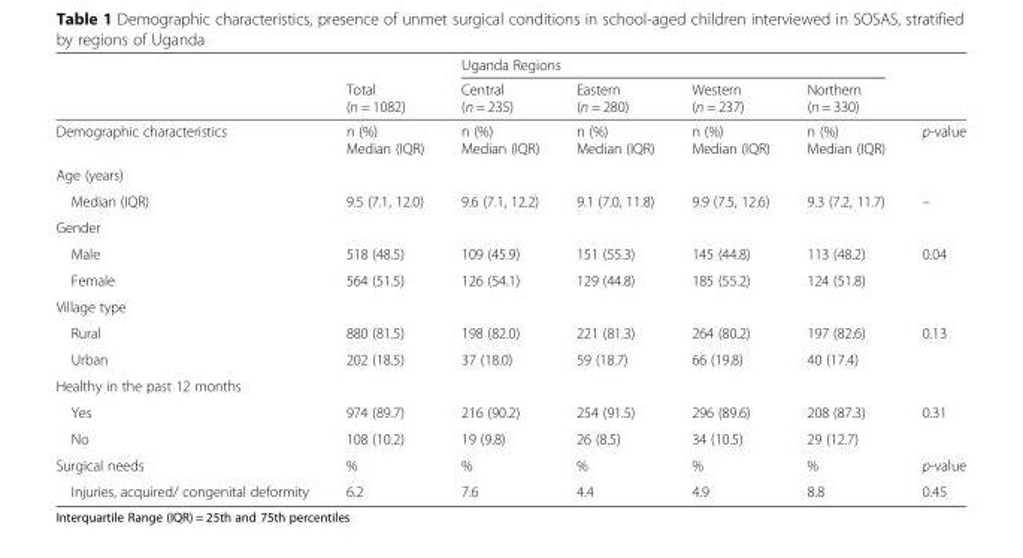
<table><thead><tr><td rowspan="2"></td><td rowspan="2">Total (n = 1082)</td><td colspan="4">Uganda Regions</td><td rowspan="2"></td></tr><tr><td>Central (n = 235)</td><td>Eastern (n = 280)</td><td>Western (n = 237)</td><td>Northern (n = 330)</td></tr></thead><tbody><tr><td>Demographic characteristics</td><td>n (%) Median (IQR)</td><td>n (%) Median (IQR)</td><td>n (%) Median (IQR)</td><td>n (%) Median (IQR)</td><td>n (%) Median (IQR)</td><td>p-value</td></tr><tr><td colspan="7">Age (years)</td></tr><tr><td>Median (IQR)</td><td>9.5 (7.1, 12.0)</td><td>9.6 (7.1, 12.2)</td><td>9.1 (7.0, 11.8)</td><td>9.9 (7.5, 12.6)</td><td>9.3 (7.2, 11.7)</td><td>–</td></tr><tr><td colspan="7">Gender</td></tr><tr><td>Male</td><td>518 (48.5)</td><td>109 (45.9)</td><td>151 (55.3)</td><td>145 (44.8)</td><td>113 (48.2)</td><td>0.04</td></tr><tr><td>Female</td><td>564 (51.5)</td><td>126 (54.1)</td><td>129 (44.8)</td><td>185 (55.2)</td><td>124 (51.8)</td><td></td></tr><tr><td colspan="7">Village type</td></tr><tr><td>Rural</td><td>880 (81.5)</td><td>198 (82.0)</td><td>221 (81.3)</td><td>264 (80.2)</td><td>197 (82.6)</td><td>0.13</td></tr><tr><td>Urban</td><td>202 (18.5)</td><td>37 (18.0)</td><td>59 (18.7)</td><td>66 (19.8)</td><td>40 (17.4)</td><td></td></tr><tr><td colspan="7">Healthy in the past 12 months</td></tr><tr><td>Yes</td><td>974 (89.7)</td><td>216 (90.2)</td><td>254 (91.5)</td><td>296 (89.6)</td><td>208 (87.3)</td><td>0.31</td></tr><tr><td>No</td><td>108 (10.2)</td><td>19 (9.8)</td><td>26 (8.5)</td><td>34 (10.5)</td><td>29 (12.7)</td><td></td></tr><tr><td>Surgical needs</td><td>%</td><td>%</td><td>%</td><td>%</td><td>%</td><td>p-value</td></tr><tr><td>Injuries, acquired/ congenital deformity</td><td>6.2</td><td>7.6</td><td>4.4</td><td>4.9</td><td>8.8</td><td>0.45</td></tr></tbody></table>